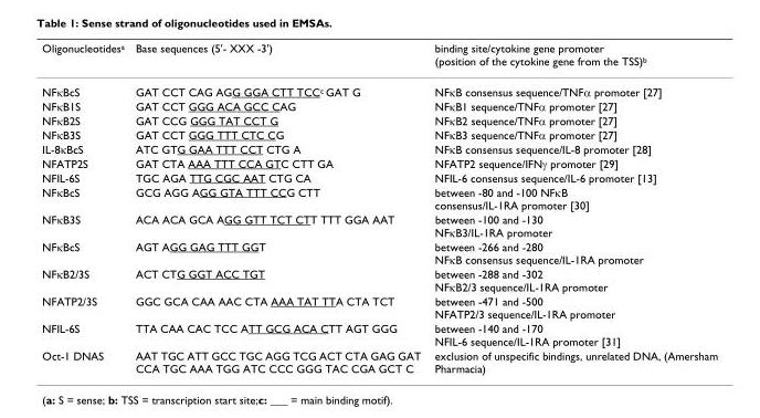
<table><thead><tr><td>Oligonucleotides<sup>a</sup></td><td>Base sequences (5&#x27;- XXX -3&#x27;)</td><td>binding site/cytokine gene promoter (position of the cytokine gene from the TSS)<sup>b</sup></td></tr></thead><tbody><tr><td>NFκBcS</td><td>GAT CCT CAG AGG GGA CTT TCC<sup>c</sup> GAT G</td><td>NFκB consensus sequence/TNFα promoter [27]</td></tr><tr><td>NFκB1S</td><td>GAT CCT GGG ACA GCC CAG</td><td>NFκB1 sequence/TNFα promoter [27]</td></tr><tr><td>NFκB2S</td><td>GAT CCG GGG TAT CCT G</td><td>NFκB2 sequence/TNFα promoter [27]</td></tr><tr><td>NFκB3S</td><td>GAT CCT GGG TTT CTC CG</td><td>NFκB3 sequence/TNFα promoter [27]</td></tr><tr><td>IL-8κBcS</td><td>ATC GTG GAA TTT CCT CTG A</td><td>NFκB consensus sequence/IL-8 promoter [28]</td></tr><tr><td>NFATP2S</td><td>GAT CTA AAA TTT CCA GTC CTT GA</td><td>NFATP2 sequence/IFNγ promoter [29]</td></tr><tr><td>NFIL-6S</td><td>TGC AGA TTG CGC AAT CTG CA</td><td>NFIL-6 consensus sequence/IL-6 promoter [13]</td></tr><tr><td>NFκBcS</td><td>GCG AGG AGG GTA TTT CCG CTT</td><td>between -80 and -100 NFκB consensus/IL-1RA promoter [30]</td></tr><tr><td>NFκB3S</td><td>ACA ACA GCA AGG GTT TCT CTT TTT GGA AAT</td><td>between -100 and -130 NFκB3/IL-1RA promoter</td></tr><tr><td>NFκBcS</td><td>AGT AGG GAG TTT GGT</td><td>between -266 and -280 NFκB consensus sequence/IL-1RA promoter</td></tr><tr><td>NFκB2/3S</td><td>ACT CTG GGT ACC TGT</td><td>between -288 and -302 NFκB2/3 sequence/IL-1RA promoter</td></tr><tr><td>NFATP2/3S</td><td>GGC GCA CAA AAC CTA AAA TAT TTA CTA TCT</td><td>between -471 and -500 NFATP2/3 sequence/IL-1RA promoter</td></tr><tr><td>NFIL-6S</td><td>TTA CAA CAC TCC ATT GCG ACA CTT AGT GGG</td><td>between -140 and -170 NFIL-6 sequence/IL-1RA promoter [31]</td></tr><tr><td>Oct-1 DNAS</td><td>AAT TGC ATT GCC TGC AGG TCG ACT CTA GAG GAT CCA TGC AAA TGG ATC CCC GGG TAC CGA GCT C</td><td>exclusion of unspecific bindings, unrelated DNA, (Amersham Pharmacia)</td></tr></tbody></table>